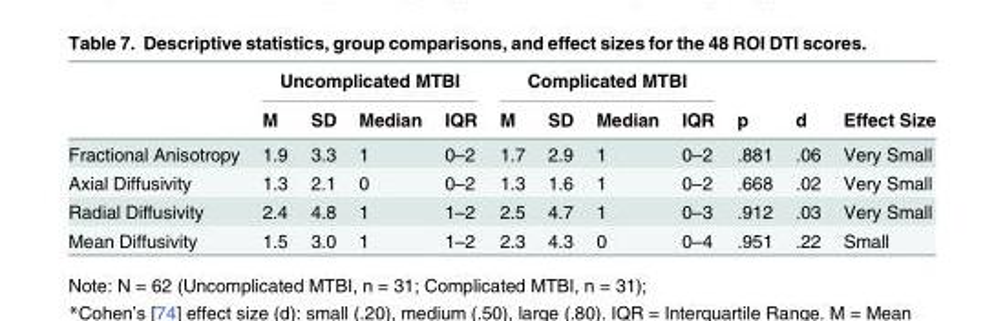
<table><thead><tr><td rowspan="2"></td><td colspan="4">Uncomplicated MTBI</td><td colspan="4">Complicated MTBI</td><td rowspan="2">p</td><td rowspan="2">d</td><td rowspan="2">Effect Size</td></tr><tr><td>M</td><td>SD</td><td>Median</td><td>IQR</td><td>M</td><td>SD</td><td>Median</td><td>IQR</td></tr></thead><tbody><tr><td>Fractional Anisotropy</td><td>1.9</td><td>3.3</td><td>1</td><td>0–2</td><td>1.7</td><td>2.9</td><td>1</td><td>0–2</td><td>.881</td><td>.06</td><td>Very Small</td></tr><tr><td>Axial Diffusivity</td><td>1.3</td><td>2.1</td><td>0</td><td>0–2</td><td>1.3</td><td>1.6</td><td>1</td><td>0–2</td><td>.668</td><td>.02</td><td>Very Small</td></tr><tr><td>Radial Diffusivity</td><td>2.4</td><td>4.8</td><td>1</td><td>1–2</td><td>2.5</td><td>4.7</td><td>1</td><td>0–3</td><td>.912</td><td>.03</td><td>Very Small</td></tr><tr><td>Mean Diffusivity</td><td>1.5</td><td>3.0</td><td>1</td><td>1–2</td><td>2.3</td><td>4.3</td><td>0</td><td>0–4</td><td>.951</td><td>.22</td><td>Small</td></tr></tbody></table>